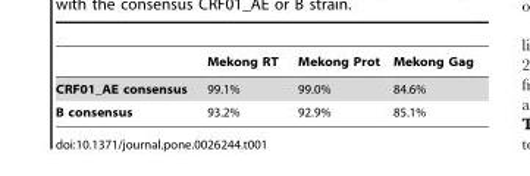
<table><thead><tr><td></td><td>Mekong RT</td><td>Mekong Prot</td><td>Mekong Gag</td></tr></thead><tbody><tr><td>CRF01_AE consensus</td><td>99.1%</td><td>99.0%</td><td>84.6%</td></tr><tr><td>B consensus</td><td>93.2%</td><td>92.9%</td><td>85.1%</td></tr></tbody></table>